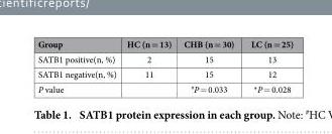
<table><thead><tr><td>Group</td><td>HC (n = 13)</td><td>CHB (n = 30)</td><td>LC (n = 25)</td></tr></thead><tbody><tr><td>SATB1 positive(n, %)</td><td>2</td><td>15</td><td>13</td></tr><tr><td>SATB1 negative(n, %)</td><td>11</td><td>15</td><td>12</td></tr><tr><td>P value</td><td></td><td>#P = 0.033</td><td>*P = 0.028</td></tr></tbody></table>